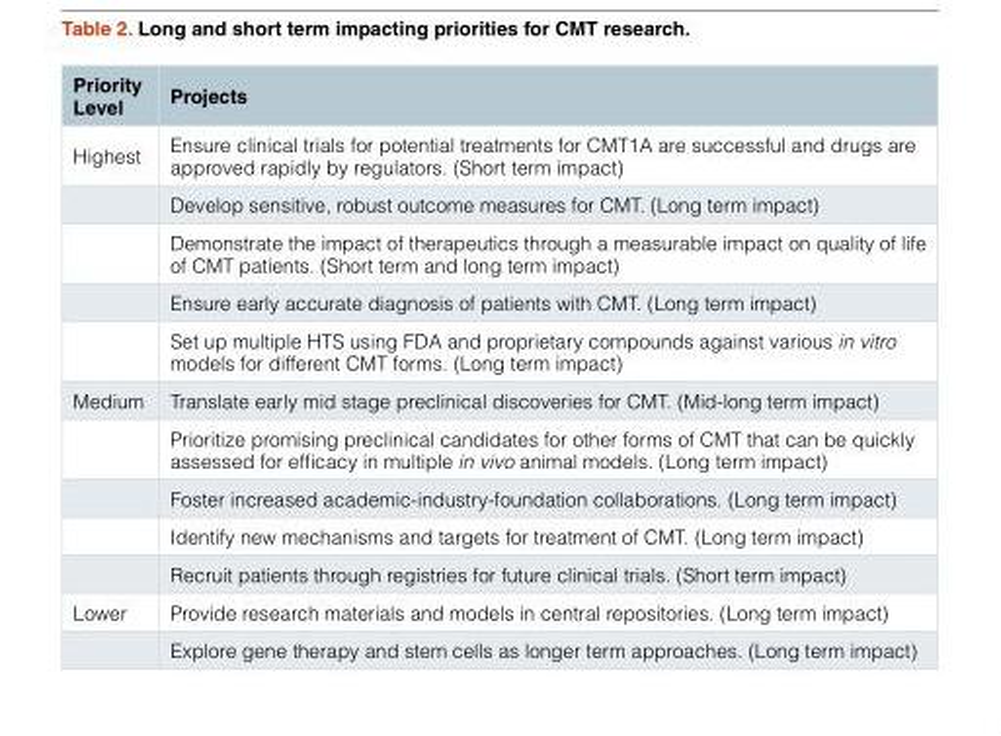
<table><thead><tr><td>Priority Level</td><td>Projects</td></tr></thead><tbody><tr><td rowspan="5">Highest</td><td>Ensure clinical trials for potential treatments for CMT1A are successful and drugs are approved rapidly by regulators. (Short term impact)</td></tr><tr><td>Develop sensitive, robust outcome measures for CMT. (Long term impact)</td></tr><tr><td>Demonstrate the impact of therapeutics through a measurable impact on quality of life of CMT patients. (Short term and long term impact)</td></tr><tr><td>Ensure early accurate diagnosis of patients with CMT. (Long term impact)</td></tr><tr><td>Set up multiple HTS using FDA and proprietary compounds against various in vitro models for different CMT forms. (Long term impact)</td></tr><tr><td rowspan="5">Medium</td><td>Translate early mid stage preclinical discoveries for CMT. (Mid-long term impact)</td></tr><tr><td>Prioritize promising preclinical candidates for other forms of CMT that can be quickly assessed for efficacy in multiple in vivo animal models. (Long term impact)</td></tr><tr><td>Foster increased academic-industry-foundation collaborations. (Long term impact)</td></tr><tr><td>Identify new mechanisms and targets for treatment of CMT. (Long term impact)</td></tr><tr><td>Recruit patients through registries for future clinical trials. (Short term impact)</td></tr><tr><td rowspan="2">Lower</td><td>Provide research materials and models in central repositories. (Long term impact)</td></tr><tr><td>Explore gene therapy and stem cells as longer term approaches. (Long term impact)</td></tr></tbody></table>